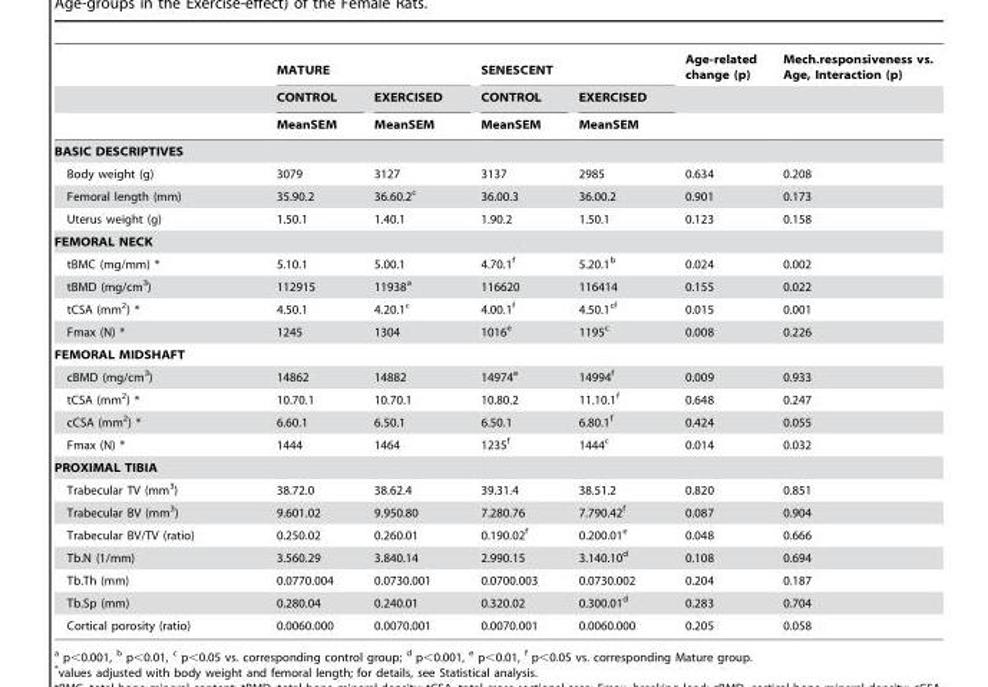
<table><thead><tr><td rowspan="3"></td><td colspan="2">MATURE</td><td colspan="2">SENESCENT</td><td rowspan="3">Age-related change (p)</td><td rowspan="3">Mech.responsiveness vs. Age, Interaction (p)</td></tr><tr><td rowspan="2">CONTROL MeanSEM</td><td rowspan="2">EXERCISED MeanSEM</td><td rowspan="2">CONTROL MeanSEM</td><td rowspan="2">EXERCISED MeanSEM</td></tr><tr></tr></thead><tbody><tr><td colspan="7">BASIC DESCRIPTIVES</td></tr><tr><td>Body weight (g)</td><td>3079</td><td>3127</td><td>3137</td><td>2985</td><td>0.634</td><td>0.208</td></tr><tr><td>Femoral length (mm)</td><td>35.90.2</td><td>36.60.2<sup>c</sup></td><td>36.00.3</td><td>36.00.2</td><td>0.901</td><td>0.173</td></tr><tr><td>Uterus weight (g)</td><td>1.50.1</td><td>1.40.1</td><td>1.90.2</td><td>1.50.1</td><td>0.123</td><td>0.158</td></tr><tr><td colspan="7">FEMORAL NECK</td></tr><tr><td>tBMC (mg/mm) *</td><td>5.10.1</td><td>5.00.1</td><td>4.70.1<sup>f</sup></td><td>5.20.1<sup>b</sup></td><td>0.024</td><td>0.002</td></tr><tr><td>tBMD (mg/cm<sup>3</sup>)</td><td>112915</td><td>11938<sup>a</sup></td><td>116620</td><td>116414</td><td>0.155</td><td>0.022</td></tr><tr><td>tCSA (mm<sup>2</sup>) *</td><td>4.50.1</td><td>4.20.1<sup>c</sup></td><td>4.00.1<sup>f</sup></td><td>4.50.1<sup>cf</sup></td><td>0.015</td><td>0.001</td></tr><tr><td>Fmax (N) *</td><td>1245</td><td>1304</td><td>1016<sup>e</sup></td><td>1195<sup>c</sup></td><td>0.008</td><td>0.226</td></tr><tr><td colspan="7">FEMORAL MIDSHAFT</td></tr><tr><td>cBMD (mg/cm<sup>3</sup>)</td><td>14862</td><td>14882</td><td>14974<sup>e</sup></td><td>14994<sup>f</sup></td><td>0.009</td><td>0.933</td></tr><tr><td>tCSA (mm<sup>2</sup>) *</td><td>10.70.1</td><td>10.70.1</td><td>10.80.2</td><td>11.10.1<sup>f</sup></td><td>0.648</td><td>0.247</td></tr><tr><td>cCSA (mm<sup>2</sup>) *</td><td>6.60.1</td><td>6.50.1</td><td>6.50.1</td><td>6.80.1<sup>f</sup></td><td>0.424</td><td>0.055</td></tr><tr><td>Fmax (N) *</td><td>1444</td><td>1464</td><td>1235<sup>f</sup></td><td>1444<sup>c</sup></td><td>0.014</td><td>0.032</td></tr><tr><td colspan="7">PROXIMAL TIBIA</td></tr><tr><td>Trabecular TV (mm<sup>3</sup>)</td><td>38.72.0</td><td>38.62.4</td><td>39.31.4</td><td>38.51.2</td><td>0.820</td><td>0.851</td></tr><tr><td>Trabecular BV (mm<sup>3</sup>)</td><td>9.601.02</td><td>9.950.80</td><td>7.280.76</td><td>7.790.42<sup>f</sup></td><td>0.087</td><td>0.904</td></tr><tr><td>Trabecular BV/TV (ratio)</td><td>0.250.02</td><td>0.260.01</td><td>0.190.02<sup>f</sup></td><td>0.200.01<sup>e</sup></td><td>0.048</td><td>0.666</td></tr><tr><td>Tb.N (1/mm)</td><td>3.560.29</td><td>3.840.14</td><td>2.990.15</td><td>3.140.10<sup>d</sup></td><td>0.108</td><td>0.694</td></tr><tr><td>Tb.Th (mm)</td><td>0.0770.004</td><td>0.0730.001</td><td>0.0700.003</td><td>0.0730.002</td><td>0.204</td><td>0.187</td></tr><tr><td>Tb.Sp (mm)</td><td>0.280.04</td><td>0.240.01</td><td>0.320.02</td><td>0.300.01<sup>d</sup></td><td>0.283</td><td>0.704</td></tr><tr><td>Cortical porosity (ratio)</td><td>0.0060.000</td><td>0.0070.001</td><td>0.0070.001</td><td>0.0060.000</td><td>0.205</td><td>0.058</td></tr></tbody></table>